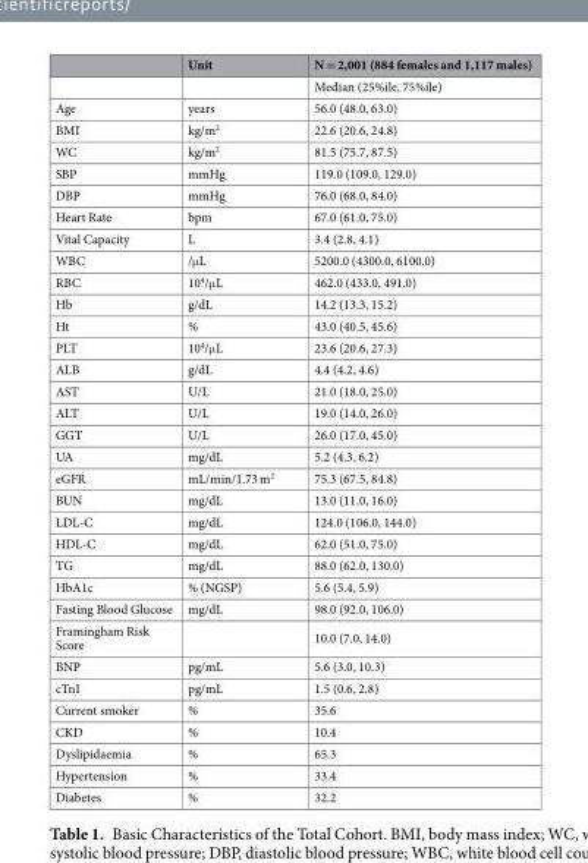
<table><thead><tr><td></td><td>Unit</td><td>N = 2,001 (884 females and 1,117 males)</td></tr></thead><tbody><tr><td></td><td></td><td>Median (25%ile, 75%ile)</td></tr><tr><td>Age</td><td>years</td><td>56.0 (48.0, 63.0)</td></tr><tr><td>BMI</td><td>kg/m<sup>2</sup></td><td>22.6 (20.6, 24.8)</td></tr><tr><td>WC</td><td>kg/m<sup>2</sup></td><td>81.5 (75.7, 87.5)</td></tr><tr><td>SBP</td><td>mmHg</td><td>119.0 (109.0, 129.0)</td></tr><tr><td>DBP</td><td>mmHg</td><td>76.0 (68.0, 84.0)</td></tr><tr><td>Heart Rate</td><td>bpm</td><td>67.0 (61.0, 75.0)</td></tr><tr><td>Vital Capacity</td><td>L</td><td>3.4 (2.8, 4.1)</td></tr><tr><td>WBC</td><td>/μL</td><td>5200.0 (4300.0, 6100.0)</td></tr><tr><td>RBC</td><td>10<sup>4</sup>/μL</td><td>462.0 (433.0, 491.0)</td></tr><tr><td>Hb</td><td>g/dL</td><td>14.2 (13.3, 15.2)</td></tr><tr><td>Ht</td><td>%</td><td>43.0 (40.5, 45.6)</td></tr><tr><td>PLT</td><td>10<sup>4</sup>/μL</td><td>23.6 (20.6, 27.3)</td></tr><tr><td>ALB</td><td>g/dL</td><td>4.4 (4.2, 4.6)</td></tr><tr><td>AST</td><td>U/L</td><td>21.0 (18.0, 25.0)</td></tr><tr><td>ALT</td><td>U/L</td><td>19.0 (14.0, 26.0)</td></tr><tr><td>GGT</td><td>U/L</td><td>26.0 (17.0, 45.0)</td></tr><tr><td>UA</td><td>mg/dL</td><td>5.2 (4.3, 6.2)</td></tr><tr><td>eGFR</td><td>mL/min/1.73 m<sup>2</sup></td><td>75.3 (67.5, 84.8)</td></tr><tr><td>BUN</td><td>mg/dL</td><td>13.0 (11.0, 16.0)</td></tr><tr><td>LDL-C</td><td>mg/dL</td><td>124.0 (106.0, 144.0)</td></tr><tr><td>HDL-C</td><td>mg/dL</td><td>62.0 (51.0, 75.0)</td></tr><tr><td>TG</td><td>mg/dL</td><td>88.0 (62.0, 130.0)</td></tr><tr><td>HbA1c</td><td>% (NGSP)</td><td>5.6 (5.4, 5.9)</td></tr><tr><td>Fasting Blood Glucose</td><td>mg/dL</td><td>98.0 (92.0, 106.0)</td></tr><tr><td>Framingham Risk Score</td><td></td><td>10.0 (7.0, 14.0)</td></tr><tr><td>BNP</td><td>pg/mL</td><td>5.6 (3.0, 10.3)</td></tr><tr><td>cTnI</td><td>pg/mL</td><td>1.5 (0.6, 2.8)</td></tr><tr><td>Current smoker</td><td>%</td><td>35.6</td></tr><tr><td>CKD</td><td>%</td><td>10.4</td></tr><tr><td>Dyslipidaemia</td><td>%</td><td>65.3</td></tr><tr><td>Hypertension</td><td>%</td><td>33.4</td></tr><tr><td>Diabetes</td><td>%</td><td>32.2</td></tr></tbody></table>